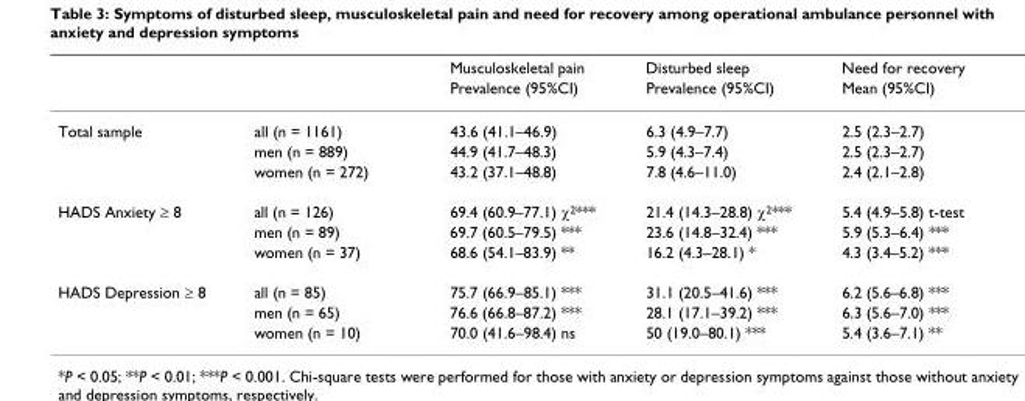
<table><thead><tr><td rowspan="2"></td><td rowspan="2"></td><td rowspan="2">Musculoskeletal pain Prevalence (95%CI)</td><td rowspan="2">Disturbed sleep Prevalence (95%CI)</td><td rowspan="2">Need for recovery Mean (95%CI)</td></tr><tr></tr></thead><tbody><tr><td rowspan="3">Total sample</td><td>all (n = 1161)</td><td>43.6 (41.1–46.9)</td><td>6.3 (4.9–7.7)</td><td>2.5 (2.3–2.7)</td></tr><tr><td>men (n = 889)</td><td>44.9 (41.7–48.3)</td><td>5.9 (4.3–7.4)</td><td>2.5 (2.3–2.7)</td></tr><tr><td>women (n = 272)</td><td>43.2 (37.1–48.8)</td><td>7.8 (4.6–11.0)</td><td>2.4 (2.1–2.8)</td></tr><tr><td rowspan="3">HADS Anxiety ≥ 8</td><td>all (n = 126)</td><td>69.4 (60.9–77.1) χ<sup>2</sup>***</td><td>21.4 (14.3–28.8) χ<sup>2</sup>***</td><td>5.4 (4.9–5.8) t-test</td></tr><tr><td>men (n = 89)</td><td>69.7 (60.5–79.5) ***</td><td>23.6 (14.8–32.4) ***</td><td>5.9 (5.3–6.4) ***</td></tr><tr><td>women (n = 37)</td><td>68.6 (54.1–83.9) **</td><td>16.2 (4.3–28.1) *</td><td>4.3 (3.4–5.2) ***</td></tr><tr><td rowspan="3">HADS Depression ≥ 8</td><td>all (n = 85)</td><td>75.7 (66.9–85.1) ***</td><td>31.1 (20.5–41.6) ***</td><td>6.2 (5.6–6.8) ***</td></tr><tr><td>men (n = 65)</td><td>76.6 (66.8–87.2) ***</td><td>28.1 (17.1–39.2) ***</td><td>6.3 (5.6–7.0) ***</td></tr><tr><td>women (n = 10)</td><td>70.0 (41.6–98.4) ns</td><td>50 (19.0–80.1) ***</td><td>5.4 (3.6–7.1) **</td></tr></tbody></table>